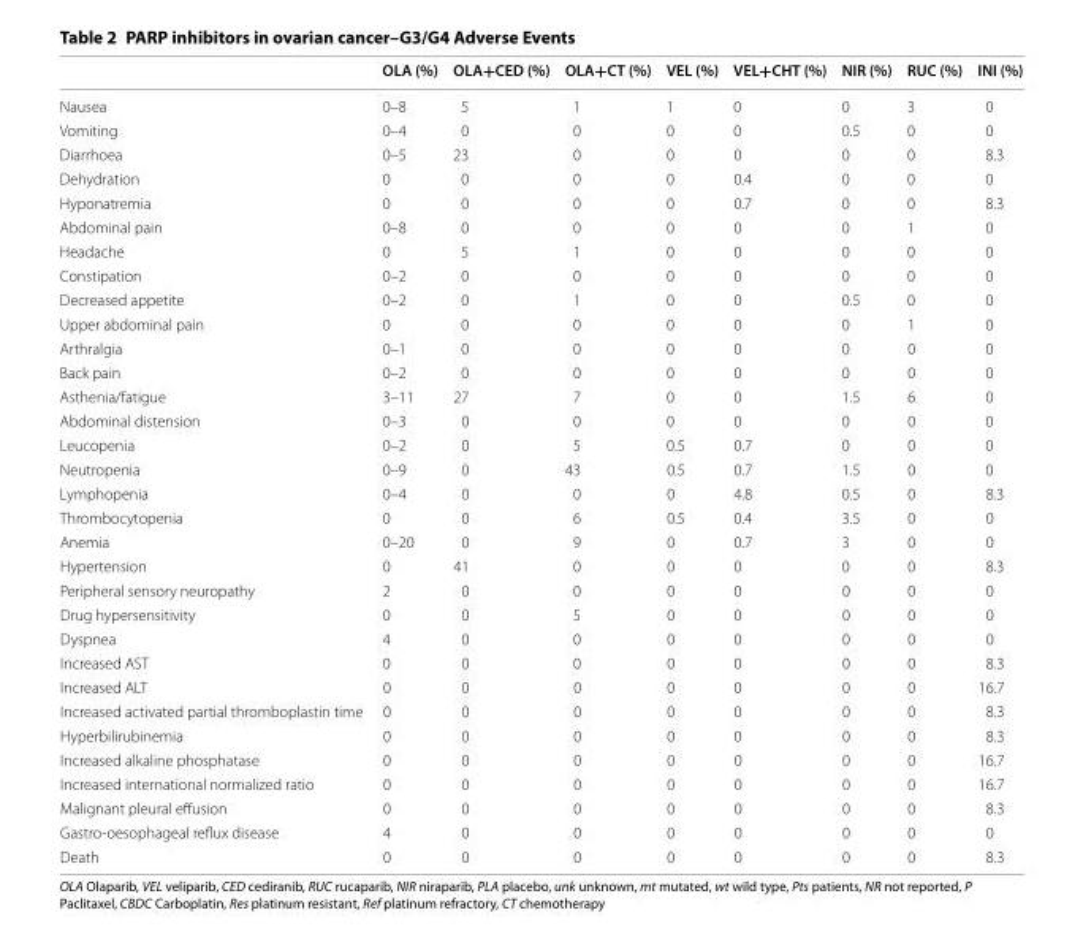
<table><thead><tr><td></td><td>OLA (%)</td><td>OLA+CED (%)</td><td>OLA+CT (%)</td><td>VEL (%)</td><td>VEL+CHT (%)</td><td>NIR (%)</td><td>RUC (%)</td><td>INI (%)</td></tr></thead><tbody><tr><td>Nausea</td><td>0–8</td><td>5</td><td>1</td><td>1</td><td>0</td><td>0</td><td>3</td><td>0</td></tr><tr><td>Vomiting</td><td>0–4</td><td>0</td><td>0</td><td>0</td><td>0</td><td>0.5</td><td>0</td><td>0</td></tr><tr><td>Diarrhoea</td><td>0–5</td><td>23</td><td>0</td><td>0</td><td>0</td><td>0</td><td>0</td><td>8.3</td></tr><tr><td>Dehydration</td><td>0</td><td>0</td><td>0</td><td>0</td><td>0.4</td><td>0</td><td>0</td><td>0</td></tr><tr><td>Hyponatremia</td><td>0</td><td>0</td><td>0</td><td>0</td><td>0.7</td><td>0</td><td>0</td><td>8.3</td></tr><tr><td>Abdominal pain</td><td>0–8</td><td>0</td><td>0</td><td>0</td><td>0</td><td>0</td><td>1</td><td>0</td></tr><tr><td>Headache</td><td>0</td><td>5</td><td>1</td><td>0</td><td>0</td><td>0</td><td>0</td><td>0</td></tr><tr><td>Constipation</td><td>0–2</td><td>0</td><td>0</td><td>0</td><td>0</td><td>0</td><td>0</td><td>0</td></tr><tr><td>Decreased appetite</td><td>0–2</td><td>0</td><td>1</td><td>0</td><td>0</td><td>0.5</td><td>0</td><td>0</td></tr><tr><td>Upper abdominal pain</td><td>0</td><td>0</td><td>0</td><td>0</td><td>0</td><td>0</td><td>1</td><td>0</td></tr><tr><td>Arthralgia</td><td>0–1</td><td>0</td><td>0</td><td>0</td><td>0</td><td>0</td><td>0</td><td>0</td></tr><tr><td>Back pain</td><td>0–2</td><td>0</td><td>0</td><td>0</td><td>0</td><td>0</td><td>0</td><td>0</td></tr><tr><td>Asthenia/fatigue</td><td>3–11</td><td>27</td><td>7</td><td>0</td><td>0</td><td>1.5</td><td>6</td><td>0</td></tr><tr><td>Abdominal distension</td><td>0–3</td><td>0</td><td>0</td><td>0</td><td>0</td><td>0</td><td>0</td><td>0</td></tr><tr><td>Leucopenia</td><td>0–2</td><td>0</td><td>5</td><td>0.5</td><td>0.7</td><td>0</td><td>0</td><td>0</td></tr><tr><td>Neutropenia</td><td>0–9</td><td>0</td><td>43</td><td>0.5</td><td>0.7</td><td>1.5</td><td>0</td><td>0</td></tr><tr><td>Lymphopenia</td><td>0–4</td><td>0</td><td>0</td><td>0</td><td>4.8</td><td>0.5</td><td>0</td><td>8.3</td></tr><tr><td>Thrombocytopenia</td><td>0</td><td>0</td><td>6</td><td>0.5</td><td>0.4</td><td>3.5</td><td>0</td><td>0</td></tr><tr><td>Anemia</td><td>0–20</td><td>0</td><td>9</td><td>0</td><td>0.7</td><td>3</td><td>0</td><td>0</td></tr><tr><td>Hypertension</td><td>0</td><td>41</td><td>0</td><td>0</td><td>0</td><td>0</td><td>0</td><td>8.3</td></tr><tr><td>Peripheral sensory neuropathy</td><td>2</td><td>0</td><td>0</td><td>0</td><td>0</td><td>0</td><td>0</td><td>0</td></tr><tr><td>Drug hypersensitivity</td><td>0</td><td>0</td><td>5</td><td>0</td><td>0</td><td>0</td><td>0</td><td>0</td></tr><tr><td>Dyspnea</td><td>4</td><td>0</td><td>0</td><td>0</td><td>0</td><td>0</td><td>0</td><td>0</td></tr><tr><td>Increased AST</td><td>0</td><td>0</td><td>0</td><td>0</td><td>0</td><td>0</td><td>0</td><td>8.3</td></tr><tr><td>Increased ALT</td><td>0</td><td>0</td><td>0</td><td>0</td><td>0</td><td>0</td><td>0</td><td>16.7</td></tr><tr><td>Increased activated partial thromboplastin time</td><td>0</td><td>0</td><td>0</td><td>0</td><td>0</td><td>0</td><td>0</td><td>8.3</td></tr><tr><td>Hyperbilirubinemia</td><td>0</td><td>0</td><td>0</td><td>0</td><td>0</td><td>0</td><td>0</td><td>8.3</td></tr><tr><td>Increased alkaline phosphatase</td><td>0</td><td>0</td><td>0</td><td>0</td><td>0</td><td>0</td><td>0</td><td>16.7</td></tr><tr><td>Increased international normalized ratio</td><td>0</td><td>0</td><td>0</td><td>0</td><td>0</td><td>0</td><td>0</td><td>16.7</td></tr><tr><td>Malignant pleural effusion</td><td>0</td><td>0</td><td>0</td><td>0</td><td>0</td><td>0</td><td>0</td><td>8.3</td></tr><tr><td>Gastro-oesophageal reflux disease</td><td>4</td><td>0</td><td>0</td><td>0</td><td>0</td><td>0</td><td>0</td><td>0</td></tr><tr><td>Death</td><td>0</td><td>0</td><td>0</td><td>0</td><td>0</td><td>0</td><td>0</td><td>8.3</td></tr></tbody></table>